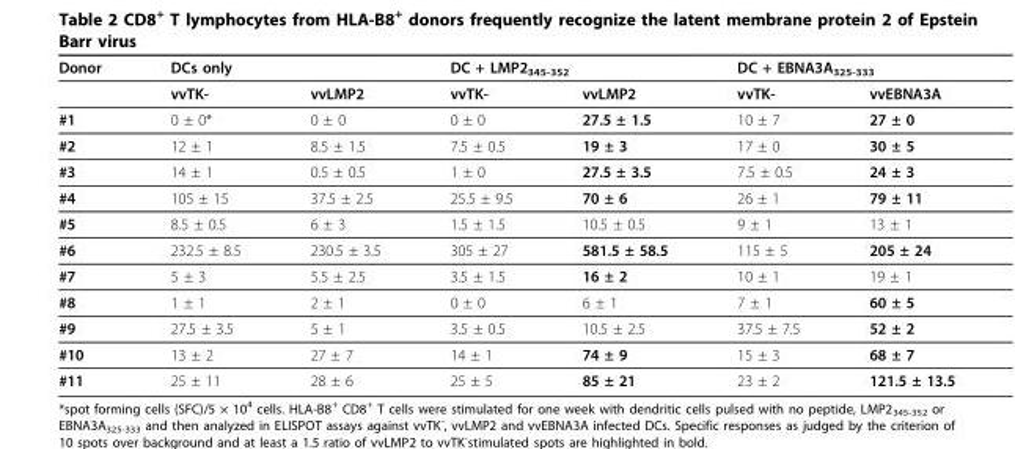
<table><thead><tr><td rowspan="2">Donor</td><td colspan="2">DCs only</td><td colspan="2">DC + LMP2<sub>345-352</sub></td><td colspan="2">DC + EBNA3A<sub>325-333</sub></td></tr><tr><td>vvTK-</td><td>vvLMP2</td><td>vvTK-</td><td>vvLMP2</td><td>vvTK-</td><td>vvEBNA3A</td></tr></thead><tbody><tr><td>#1</td><td>0 ± 0*</td><td>0 ± 0</td><td>0 ± 0</td><td>27.5 ± 1.5</td><td>10 ± 7</td><td>27 ± 0</td></tr><tr><td>#2</td><td>12 ± 1</td><td>8.5 ± 1.5</td><td>7.5 ± 0.5</td><td>19 ± 3</td><td>17 ± 0</td><td>30 ± 5</td></tr><tr><td>#3</td><td>14 ± 1</td><td>0.5 ± 0.5</td><td>1 ± 0</td><td>27.5 ± 3.5</td><td>7.5 ± 0.5</td><td>24 ± 3</td></tr><tr><td>#4</td><td>105 ± 15</td><td>37.5 ± 2.5</td><td>25.5 ± 9.5</td><td>70 ± 6</td><td>26 ± 1</td><td>79 ± 11</td></tr><tr><td>#5</td><td>8.5 ± 0.5</td><td>6 ± 3</td><td>1.5 ± 1.5</td><td>10.5 ± 0.5</td><td>9 ± 1</td><td>13 ± 1</td></tr><tr><td>#6</td><td>232.5 ± 8.5</td><td>230.5 ± 3.5</td><td>305 ± 27</td><td>581.5 ± 58.5</td><td>115 ± 5</td><td>205 ± 24</td></tr><tr><td>#7</td><td>5 ± 3</td><td>5.5 ± 2.5</td><td>3.5 ± 1.5</td><td>16 ± 2</td><td>10 ± 1</td><td>19 ± 1</td></tr><tr><td>#8</td><td>1 ± 1</td><td>2 ± 1</td><td>0 ± 0</td><td>6 ± 1</td><td>7 ± 1</td><td>60 ± 5</td></tr><tr><td>#9</td><td>27.5 ± 3.5</td><td>5 ± 1</td><td>3.5 ± 0.5</td><td>10.5 ± 2.5</td><td>37.5 ± 7.5</td><td>52 ± 2</td></tr><tr><td>#10</td><td>13 ± 2</td><td>27 ± 7</td><td>14 ± 1</td><td>74 ± 9</td><td>15 ± 3</td><td>68 ± 7</td></tr><tr><td>#11</td><td>25 ± 11</td><td>28 ± 6</td><td>25 ± 5</td><td>85 ± 21</td><td>23 ± 2</td><td>121.5 ± 13.5</td></tr></tbody></table>